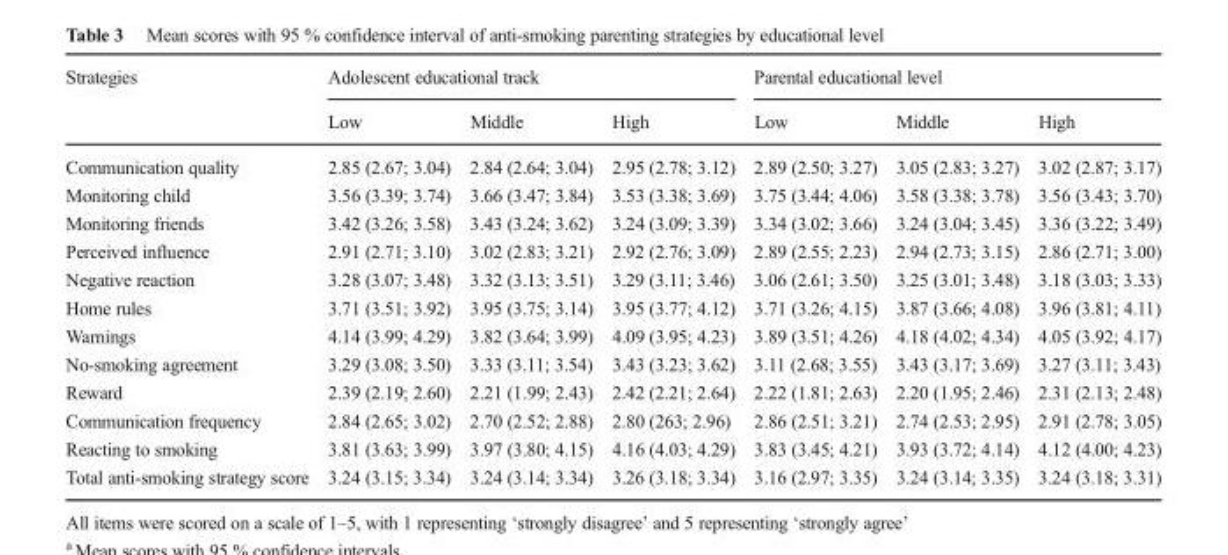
<table><thead><tr><td rowspan="2">Strategies</td><td colspan="3">Adolescent educational track</td><td colspan="3">Parental educational level</td></tr><tr><td>Low</td><td>Middle</td><td>High</td><td>Low</td><td>Middle</td><td>High</td></tr></thead><tbody><tr><td>Communication quality</td><td>2.85 (2.67; 3.04)</td><td>2.84 (2.64; 3.04)</td><td>2.95 (2.78; 3.12)</td><td>2.89 (2.50; 3.27)</td><td>3.05 (2.83; 3.27)</td><td>3.02 (2.87; 3.17)</td></tr><tr><td>Monitoring child</td><td>3.56 (3.39; 3.74)</td><td>3.66 (3.47; 3.84)</td><td>3.53 (3.38; 3.69)</td><td>3.75 (3.44; 4.06)</td><td>3.58 (3.38; 3.78)</td><td>3.56 (3.43; 3.70)</td></tr><tr><td>Monitoring friends</td><td>3.42 (3.26; 3.58)</td><td>3.43 (3.24; 3.62)</td><td>3.24 (3.09; 3.39)</td><td>3.34 (3.02; 3.66)</td><td>3.24 (3.04; 3.45)</td><td>3.36 (3.22; 3.49)</td></tr><tr><td>Perceived influence</td><td>2.91 (2.71; 3.10)</td><td>3.02 (2.83; 3.21)</td><td>2.92 (2.76; 3.09)</td><td>2.89 (2.55; 2.23)</td><td>2.94 (2.73; 3.15)</td><td>2.86 (2.71; 3.00)</td></tr><tr><td>Negative reaction</td><td>3.28 (3.07; 3.48)</td><td>3.32 (3.13; 3.51)</td><td>3.29 (3.11; 3.46)</td><td>3.06 (2.61; 3.50)</td><td>3.25 (3.01; 3.48)</td><td>3.18 (3.03; 3.33)</td></tr><tr><td>Home rules</td><td>3.71 (3.51; 3.92)</td><td>3.95 (3.75; 3.14)</td><td>3.95 (3.77; 4.12)</td><td>3.71 (3.26; 4.15)</td><td>3.87 (3.66; 4.08)</td><td>3.96 (3.81; 4.11)</td></tr><tr><td>Warnings</td><td>4.14 (3.99; 4.29)</td><td>3.82 (3.64; 3.99)</td><td>4.09 (3.95; 4.23)</td><td>3.89 (3.51; 4.26)</td><td>4.18 (4.02; 4.34)</td><td>4.05 (3.92; 4.17)</td></tr><tr><td>No-smoking agreement</td><td>3.29 (3.08; 3.50)</td><td>3.33 (3.11; 3.54)</td><td>3.43 (3.23; 3.62)</td><td>3.11 (2.68; 3.55)</td><td>3.43 (3.17; 3.69)</td><td>3.27 (3.11; 3.43)</td></tr><tr><td>Reward</td><td>2.39 (2.19; 2.60)</td><td>2.21 (1.99; 2.43)</td><td>2.42 (2.21; 2.64)</td><td>2.22 (1.81; 2.63)</td><td>2.20 (1.95; 2.46)</td><td>2.31 (2.13; 2.48)</td></tr><tr><td>Communication frequency</td><td>2.84 (2.65; 3.02)</td><td>2.70 (2.52; 2.88)</td><td>2.80 (263; 2.96)</td><td>2.86 (2.51; 3.21)</td><td>2.74 (2.53; 2.95)</td><td>2.91 (2.78; 3.05)</td></tr><tr><td>Reacting to smoking</td><td>3.81 (3.63; 3.99)</td><td>3.97 (3.80; 4.15)</td><td>4.16 (4.03; 4.29)</td><td>3.83 (3.45; 4.21)</td><td>3.93 (3.72; 4.14)</td><td>4.12 (4.00; 4.23)</td></tr><tr><td>Total anti-smoking strategy score</td><td>3.24 (3.15; 3.34)</td><td>3.24 (3.14; 3.34)</td><td>3.26 (3.18; 3.34)</td><td>3.16 (2.97; 3.35)</td><td>3.24 (3.14; 3.35)</td><td>3.24 (3.18; 3.31)</td></tr></tbody></table>